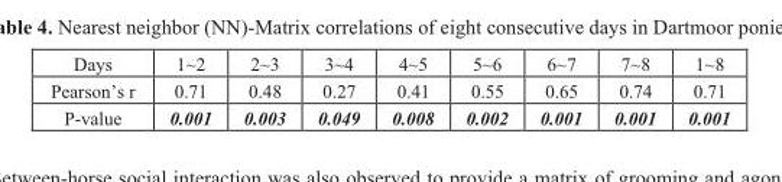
<table><tbody><tr><td>Days</td><td>1~2</td><td>2~3</td><td>3~4</td><td>4~5</td><td>5~6</td><td>6~7</td><td>7~8</td><td>1~8</td></tr><tr><td>Pearson’s r</td><td>0.71</td><td>0.48</td><td>0.27</td><td>0.41</td><td>0.55</td><td>0.65</td><td>0.74</td><td>0.71</td></tr><tr><td>P-value</td><td>0.001</td><td>0.003</td><td>0.049</td><td>0.008</td><td>0.002</td><td>0.001</td><td>0.001</td><td>0.001</td></tr></tbody></table>